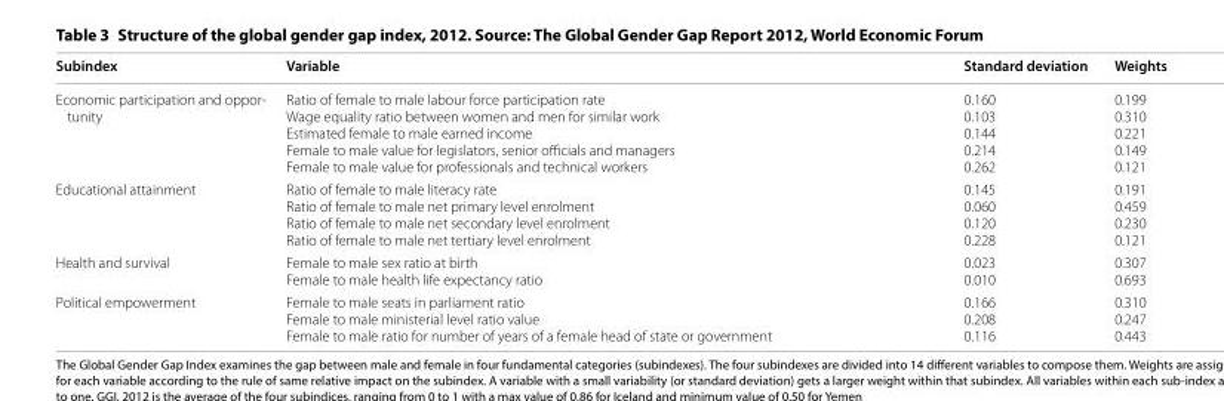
<table><thead><tr><td>Subindex</td><td>Variable</td><td>Standard deviation</td><td>Weights</td></tr></thead><tbody><tr><td>Economic participation and oppor‑ tunity</td><td>Ratio of female to male labour force participation rate Wage equality ratio between women and men for similar work Estimated female to male earned income Female to male value for legislators, senior officials and managers Female to male value for professionals and technical workers</td><td>0.160 0.103 0.144 0.214 0.262</td><td>0.199 0.310 0.221 0.149 0.121</td></tr><tr><td>Educational attainment</td><td>Ratio of female to male literacy rate Ratio of female to male net primary level enrolment Ratio of female to male net secondary level enrolment Ratio of female to male net tertiary level enrolment</td><td>0.145 0.060 0.120 0.228</td><td>0.191 0.459 0.230 0.121</td></tr><tr><td>Health and survival</td><td>Female to male sex ratio at birth Female to male health life expectancy ratio</td><td>0.023 0.010</td><td>0.307 0.693</td></tr><tr><td>Political empowerment</td><td>Female to male seats in parliament ratio Female to male ministerial level ratio value Female to male ratio for number of years of a female head of state or government</td><td>0.166 0.208 0.116</td><td>0.310 0.247 0.443</td></tr></tbody></table>